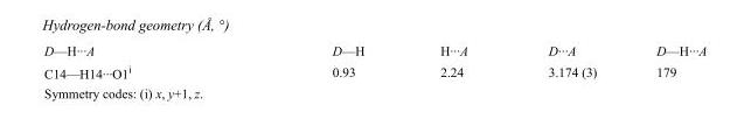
<table><tbody><tr><td>D—H···A</td><td>D—H</td><td>H···A</td><td>D···A</td><td>D—H···A</td></tr><tr><td>C14—H14···O1<sup>i</sup></td><td>0.93</td><td>2.24</td><td>3.174 (3)</td><td>179</td></tr></tbody></table>